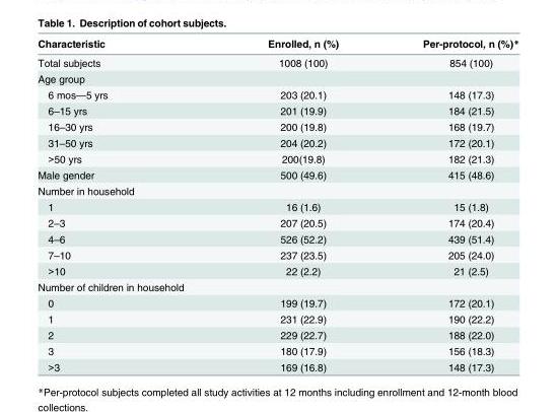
<table><thead><tr><td>Characteristic</td><td>Enrolled, n (%)</td><td>Per-protocol, n (%)*</td></tr></thead><tbody><tr><td>Total subjects</td><td>1008 (100)</td><td>854 (100)</td></tr><tr><td colspan="3">Age group</td></tr><tr><td>6 mos—5 yrs</td><td>203 (20.1)</td><td>148 (17.3)</td></tr><tr><td>6–15 yrs</td><td>201 (19.9)</td><td>184 (21.5)</td></tr><tr><td>16–30 yrs</td><td>200 (19.8)</td><td>168 (19.7)</td></tr><tr><td>31–50 yrs</td><td>204 (20.2)</td><td>172 (20.1)</td></tr><tr><td>&gt;50 yrs</td><td>200(19.8)</td><td>182 (21.3)</td></tr><tr><td>Male gender</td><td>500 (49.6)</td><td>415 (48.6)</td></tr><tr><td colspan="3">Number in household</td></tr><tr><td>1</td><td>16 (1.6)</td><td>15 (1.8)</td></tr><tr><td>2–3</td><td>207 (20.5)</td><td>174 (20.4)</td></tr><tr><td>4–6</td><td>526 (52.2)</td><td>439 (51.4)</td></tr><tr><td>7–10</td><td>237 (23.5)</td><td>205 (24.0)</td></tr><tr><td>&gt;10</td><td>22 (2.2)</td><td>21 (2.5)</td></tr><tr><td colspan="3">Number of children in household</td></tr><tr><td>0</td><td>199 (19.7)</td><td>172 (20.1)</td></tr><tr><td>1</td><td>231 (22.9)</td><td>190 (22.2)</td></tr><tr><td>2</td><td>229 (22.7)</td><td>188 (22.0)</td></tr><tr><td>3</td><td>180 (17.9)</td><td>156 (18.3)</td></tr><tr><td>&gt;3</td><td>169 (16.8)</td><td>148 (17.3)</td></tr></tbody></table>